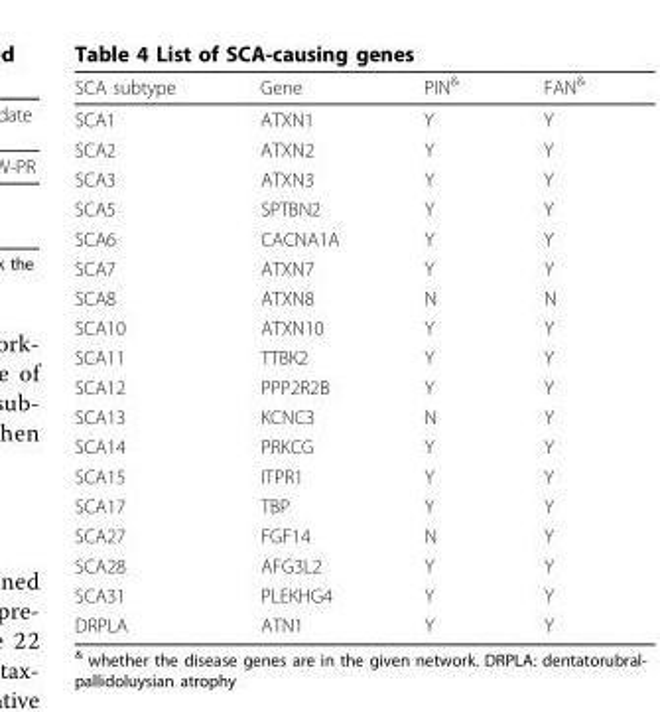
<table><thead><tr><td>SCA subtype</td><td>Gene</td><td>PIN<sup>&amp;</sup></td><td>FAN<sup>&amp;</sup></td></tr></thead><tbody><tr><td>SCA1</td><td>ATXN1</td><td>Y</td><td>Y</td></tr><tr><td>SCA2</td><td>ATXN2</td><td>Y</td><td>Y</td></tr><tr><td>SCA3</td><td>ATXN3</td><td>Y</td><td>Y</td></tr><tr><td>SCA5</td><td>SPTBN2</td><td>Y</td><td>Y</td></tr><tr><td>SCA6</td><td>CACNA1A</td><td>Y</td><td>Y</td></tr><tr><td>SCA7</td><td>ATXN7</td><td>Y</td><td>Y</td></tr><tr><td>SCA8</td><td>ATXN8</td><td>N</td><td>N</td></tr><tr><td>SCA10</td><td>ATXN10</td><td>Y</td><td>Y</td></tr><tr><td>SCA11</td><td>TTBK2</td><td>Y</td><td>Y</td></tr><tr><td>SCA12</td><td>PPP2R2B</td><td>Y</td><td>Y</td></tr><tr><td>SCA13</td><td>KCNC3</td><td>N</td><td>Y</td></tr><tr><td>SCA14</td><td>PRKCG</td><td>Y</td><td>Y</td></tr><tr><td>SCA15</td><td>ITPR1</td><td>Y</td><td>Y</td></tr><tr><td>SCA17</td><td>TBP</td><td>Y</td><td>Y</td></tr><tr><td>SCA27</td><td>FGF14</td><td>N</td><td>Y</td></tr><tr><td>SCA28</td><td>AFG3L2</td><td>Y</td><td>Y</td></tr><tr><td>SCA31</td><td>PLEKHG4</td><td>Y</td><td>Y</td></tr><tr><td>DRPLA</td><td>ATN1</td><td>Y</td><td>Y</td></tr></tbody></table>